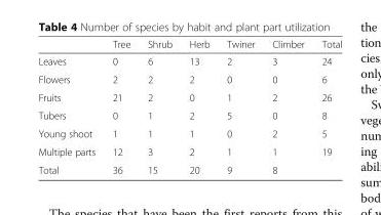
<table><thead><tr><td></td><td>Tree</td><td>Shrub</td><td>Herb</td><td>Twiner</td><td>Climber</td><td>Total</td></tr></thead><tbody><tr><td>Leaves</td><td>0</td><td>6</td><td>13</td><td>2</td><td>3</td><td>24</td></tr><tr><td>Flowers</td><td>2</td><td>2</td><td>2</td><td>0</td><td>0</td><td>6</td></tr><tr><td>Fruits</td><td>21</td><td>2</td><td>0</td><td>1</td><td>2</td><td>26</td></tr><tr><td>Tubers</td><td>0</td><td>1</td><td>2</td><td>5</td><td>0</td><td>8</td></tr><tr><td>Young shoot</td><td>1</td><td>1</td><td>1</td><td>0</td><td>2</td><td>5</td></tr><tr><td>Multiple parts</td><td>12</td><td>3</td><td>2</td><td>1</td><td>1</td><td>19</td></tr><tr><td>Total</td><td>36</td><td>15</td><td>20</td><td>9</td><td>8</td><td></td></tr></tbody></table>